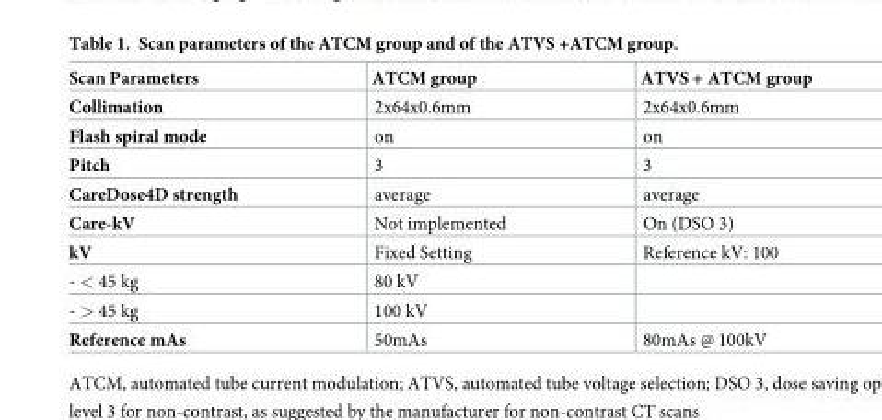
<table><thead><tr><td>Scan Parameters</td><td>ATCM group</td><td>ATVS + ATCM group</td></tr></thead><tbody><tr><td>Collimation</td><td>2x64x0.6mm</td><td>2x64x0.6mm</td></tr><tr><td>Flash spiral mode</td><td>on</td><td>on</td></tr><tr><td>Pitch</td><td>3</td><td>3</td></tr><tr><td>CareDose4D strength</td><td>average</td><td>average</td></tr><tr><td>Care-kV</td><td>Not implemented</td><td>On (DSO 3)</td></tr><tr><td>kV</td><td>Fixed Setting</td><td>Reference kV: 100</td></tr><tr><td>- &lt; 45 kg</td><td>80 kV</td><td></td></tr><tr><td>- &gt; 45 kg</td><td>100 kV</td><td></td></tr><tr><td>Reference mAs</td><td>50mAs</td><td>80mAs @ 100kV</td></tr></tbody></table>